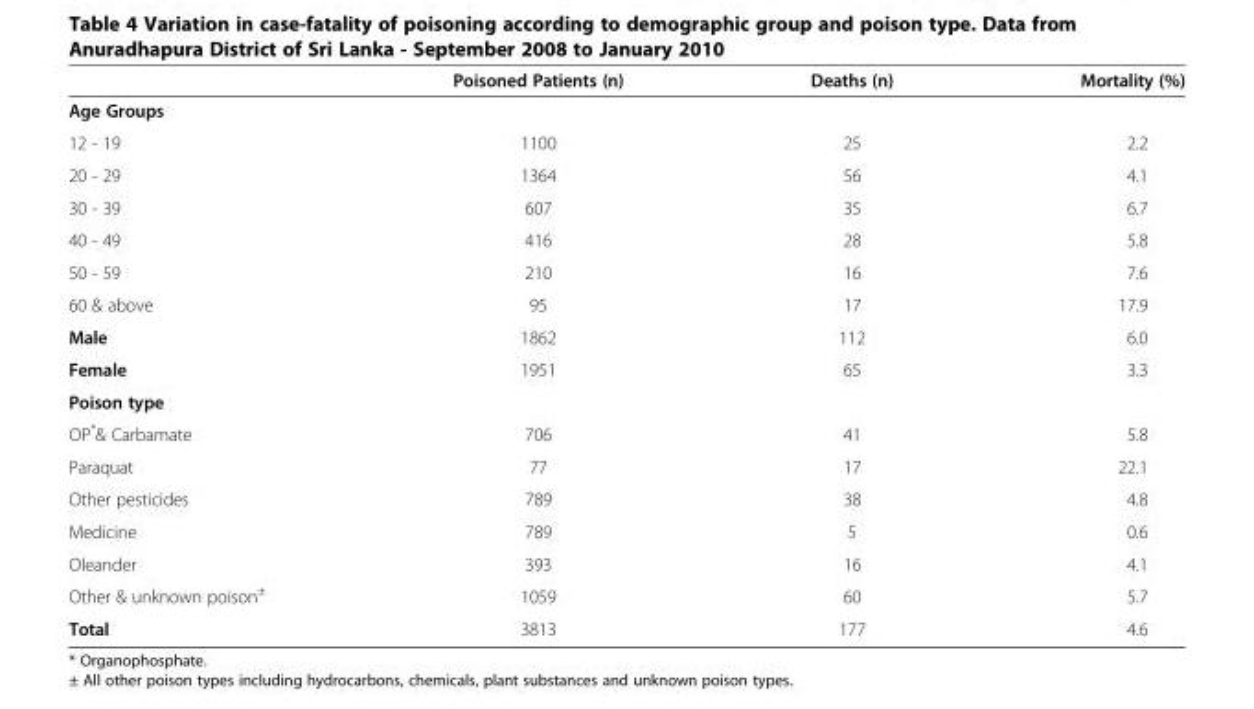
<table><thead><tr><td></td><td>Poisoned Patients (n)</td><td>Deaths (n)</td><td>Mortality (%)</td></tr></thead><tbody><tr><td colspan="4">Age Groups</td></tr><tr><td>12 - 19</td><td>1100</td><td>25</td><td>2.2</td></tr><tr><td>20 - 29</td><td>1364</td><td>56</td><td>4.1</td></tr><tr><td>30 - 39</td><td>607</td><td>35</td><td>6.7</td></tr><tr><td>40 - 49</td><td>416</td><td>28</td><td>5.8</td></tr><tr><td>50 - 59</td><td>210</td><td>16</td><td>7.6</td></tr><tr><td>60 &amp; above</td><td>95</td><td>17</td><td>17.9</td></tr><tr><td>Male</td><td>1862</td><td>112</td><td>6.0</td></tr><tr><td>Female</td><td>1951</td><td>65</td><td>3.3</td></tr><tr><td colspan="4">Poison type</td></tr><tr><td>OP*&amp; Carbamate</td><td>706</td><td>41</td><td>5.8</td></tr><tr><td>Paraquat</td><td>77</td><td>17</td><td>22.1</td></tr><tr><td>Other pesticides</td><td>789</td><td>38</td><td>4.8</td></tr><tr><td>Medicine</td><td>789</td><td>5</td><td>0.6</td></tr><tr><td>Oleander</td><td>393</td><td>16</td><td>4.1</td></tr><tr><td>Other &amp; unknown poison<sup>±</sup></td><td>1059</td><td>60</td><td>5.7</td></tr><tr><td>Total</td><td>3813</td><td>177</td><td>4.6</td></tr></tbody></table>